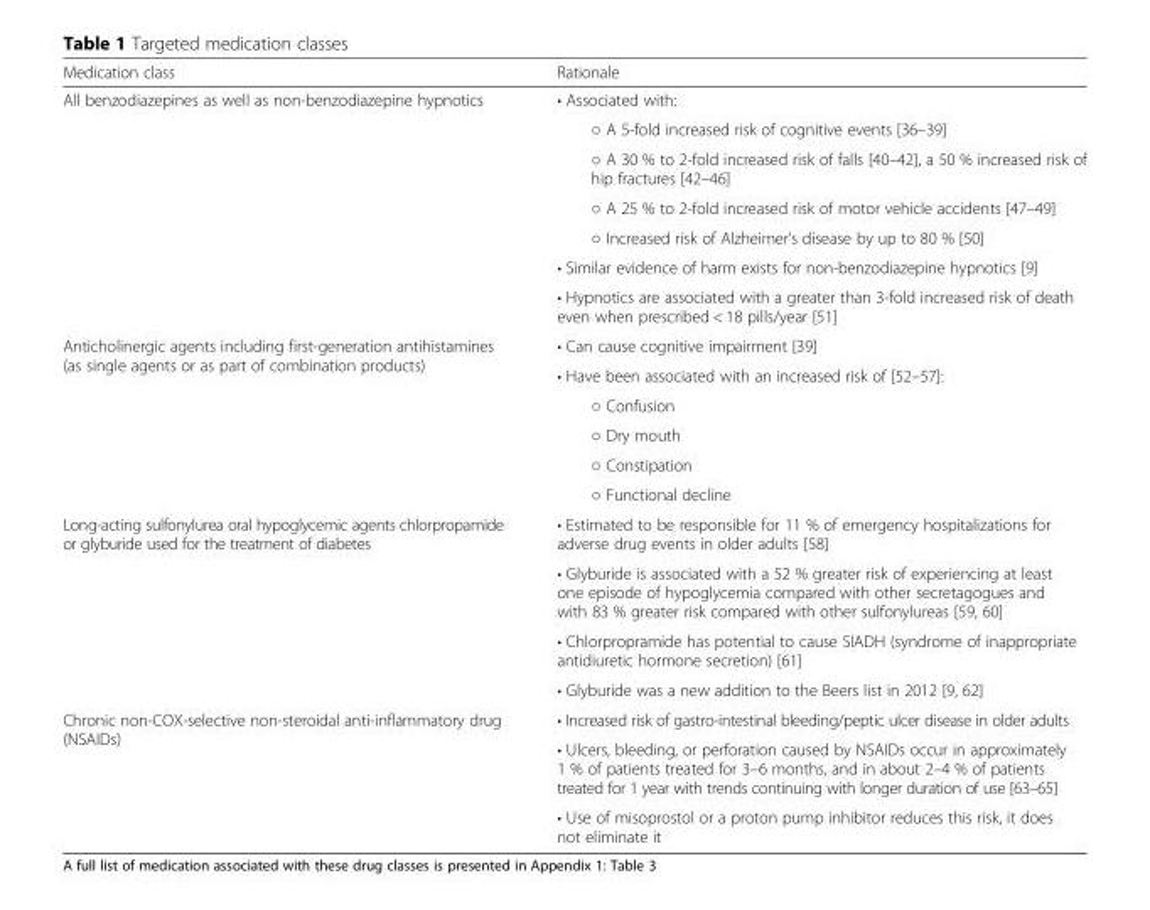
<table><thead><tr><td>Medication class</td><td>Rationale</td></tr></thead><tbody><tr><td rowspan="7">All benzodiazepines as well as non-benzodiazepine hypnotics</td><td>• Associated with:</td></tr><tr><td>○ A 5-fold increased risk of cognitive events [36–39]</td></tr><tr><td>○ A 30 % to 2-fold increased risk of falls [40–42], a 50 % increased risk of hip fractures [42–46]</td></tr><tr><td>○ A 25 % to 2-fold increased risk of motor vehicle accidents [47–49]</td></tr><tr><td>○ Increased risk of Alzheimer’s disease by up to 80 % [50]</td></tr><tr><td>• Similar evidence of harm exists for non-benzodiazepine hypnotics [9]</td></tr><tr><td>• Hypnotics are associated with a greater than 3-fold increased risk of death even when prescribed &lt; 18 pills/year [51]</td></tr><tr><td rowspan="6">Anticholinergic agents including first-generation antihistamines (as single agents or as part of combination products)</td><td>• Can cause cognitive impairment [39]</td></tr><tr><td>• Have been associated with an increased risk of [52–57]:</td></tr><tr><td>○ Confusion</td></tr><tr><td>○ Dry mouth</td></tr><tr><td>○ Constipation</td></tr><tr><td>○ Functional decline</td></tr><tr><td rowspan="4">Long-acting sulfonylurea oral hypoglycemic agents chlorpropamide or glyburide used for the treatment of diabetes</td><td>• Estimated to be responsible for 11 % of emergency hospitalizations for adverse drug events in older adults [58]</td></tr><tr><td>• Glyburide is associated with a 52 % greater risk of experiencing at least one episode of hypoglycemia compared with other secretagogues and with 83 % greater risk compared with other sulfonylureas [59, 60]</td></tr><tr><td>• Chlorpropramide has potential to cause SIADH (syndrome of inappropriate antidiuretic hormone secretion) [61]</td></tr><tr><td>• Glyburide was a new addition to the Beers list in 2012 [9, 62]</td></tr><tr><td rowspan="3">Chronic non-COX-selective non-steroidal anti-inflammatory drug (NSAIDs)</td><td>• Increased risk of gastro-intestinal bleeding/peptic ulcer disease in older adults</td></tr><tr><td>• Ulcers, bleeding, or perforation caused by NSAIDs occur in approximately 1 % of patients treated for 3–6 months, and in about 2–4 % of patients treated for 1 year with trends continuing with longer duration of use [63–65]</td></tr><tr><td>• Use of misoprostol or a proton pump inhibitor reduces this risk, it does not eliminate it</td></tr></tbody></table>